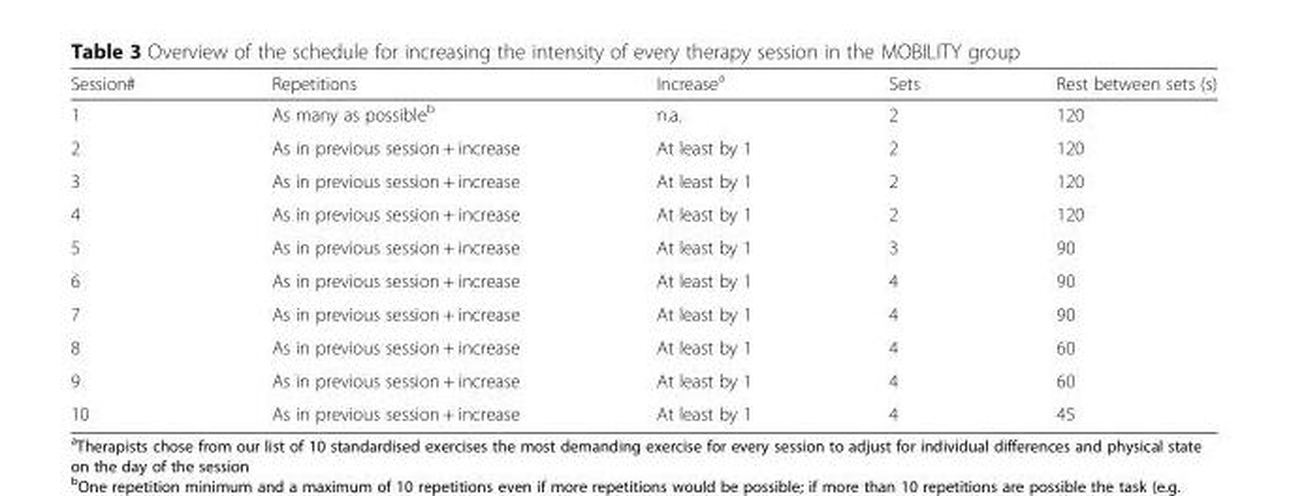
<table><thead><tr><td>Session#</td><td>Repetitions</td><td>Increase<sup>a</sup></td><td>Sets</td><td>Rest between sets (s)</td></tr></thead><tbody><tr><td>1</td><td>As many as possible<sup>b</sup></td><td>n.a.</td><td>2</td><td>120</td></tr><tr><td>2</td><td>As in previous session + increase</td><td>At least by 1</td><td>2</td><td>120</td></tr><tr><td>3</td><td>As in previous session + increase</td><td>At least by 1</td><td>2</td><td>120</td></tr><tr><td>4</td><td>As in previous session + increase</td><td>At least by 1</td><td>2</td><td>120</td></tr><tr><td>5</td><td>As in previous session + increase</td><td>At least by 1</td><td>3</td><td>90</td></tr><tr><td>6</td><td>As in previous session + increase</td><td>At least by 1</td><td>4</td><td>90</td></tr><tr><td>7</td><td>As in previous session + increase</td><td>At least by 1</td><td>4</td><td>90</td></tr><tr><td>8</td><td>As in previous session + increase</td><td>At least by 1</td><td>4</td><td>60</td></tr><tr><td>9</td><td>As in previous session + increase</td><td>At least by 1</td><td>4</td><td>60</td></tr><tr><td>10</td><td>As in previous session + increase</td><td>At least by 1</td><td>4</td><td>45</td></tr></tbody></table>